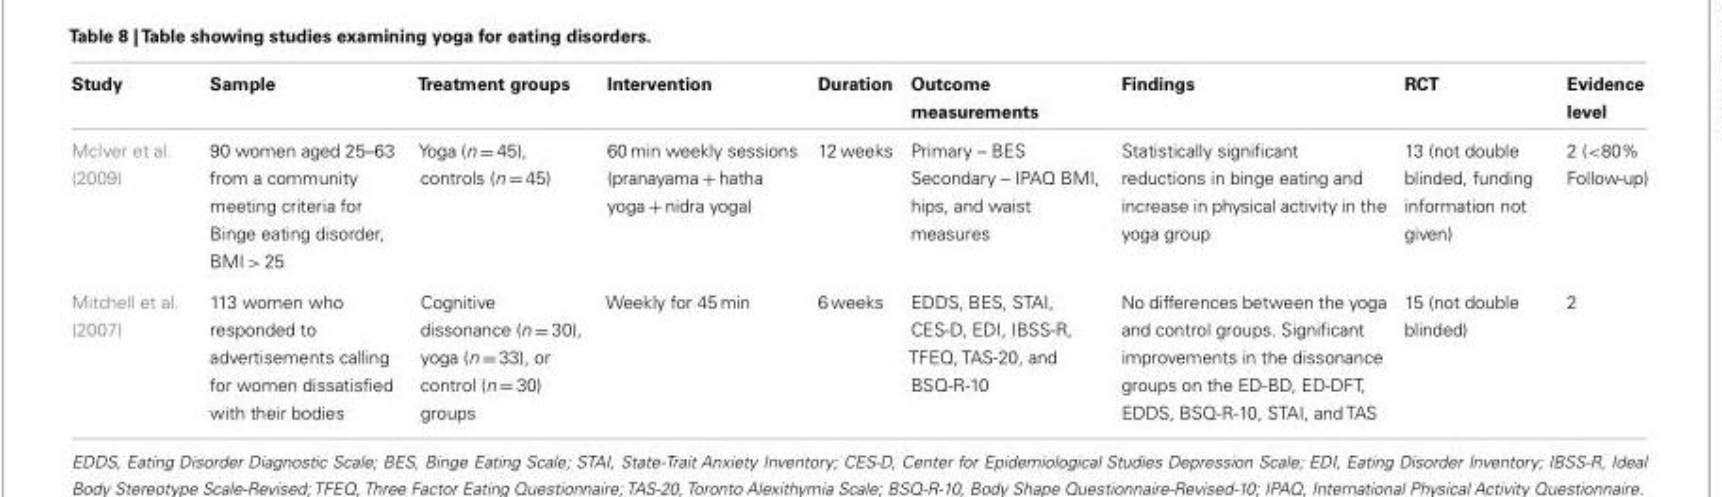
<table><thead><tr><td>Study</td><td>Sample</td><td>Treatment groups</td><td>Intervention</td><td>Duration</td><td>Outcome measurements</td><td>Findings</td><td>RCT</td><td>Evidence level</td></tr></thead><tbody><tr><td>McIver et al. (2009)</td><td>90 women aged 25–63 from a community meeting criteria for Binge eating disorder, BMI &gt; 25</td><td>Yoga (n = 45), controls (n = 45)</td><td>60 min weekly sessions (pranayama + hatha yoga + nidra yoga)</td><td>12 weeks</td><td>Primary – BES Secondary – IPAQ BMI, hips, and waist measures</td><td>Statistically significant reductions in binge eating and increase in physical activity in the yoga group</td><td>13 (not double blinded, funding information not given)</td><td>2 (&lt;80% Follow-up)</td></tr><tr><td>Mitchell et al. (2007)</td><td>113 women who responded to advertisements calling for women dissatisfied with their bodies</td><td>Cognitive dissonance (n = 30), yoga (n = 33), or control (n = 30) groups</td><td>Weekly for 45 min</td><td>6 weeks</td><td>EDDS, BES, STAI, CES-D, EDI, IBSS-R, TFEQ, TAS-20, and BSQ-R-10</td><td>No differences between the yoga and control groups. Significant improvements in the dissonance groups on the ED-BD, ED-DFT, EDDS, BSQ-R-10, STAI, and TAS</td><td>15 (not double blinded)</td><td>2</td></tr></tbody></table>